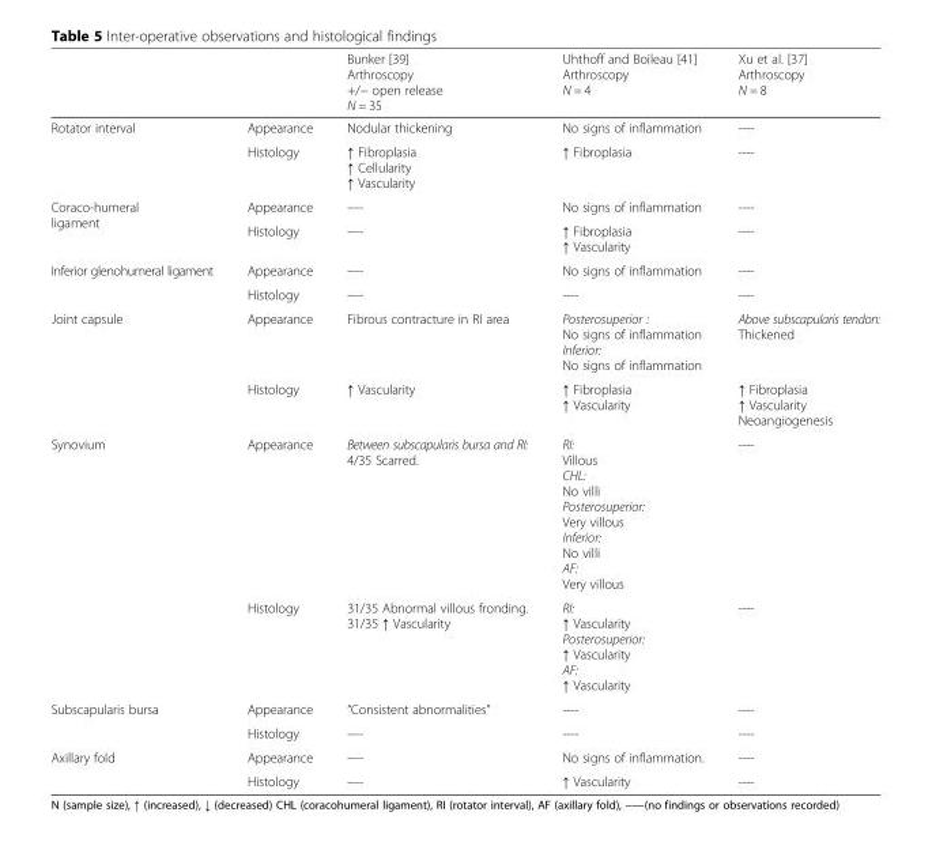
<table><thead><tr><td></td><td></td><td>Bunker [39] Arthroscopy +/− open release N = 35</td><td>Uhthoff and Boileau [41] Arthroscopy N = 4</td><td>Xu et al. [37] Arthroscopy N = 8</td></tr></thead><tbody><tr><td rowspan="2">Rotator interval</td><td>Appearance</td><td>Nodular thickening</td><td>No signs of inflammation</td><td>----</td></tr><tr><td>Histology</td><td>↑ Fibroplasia ↑ Cellularity ↑ Vascularity</td><td>↑ Fibroplasia</td><td>----</td></tr><tr><td rowspan="2">Coraco-humeral ligament</td><td>Appearance</td><td>----</td><td>No signs of inflammation</td><td>----</td></tr><tr><td>Histology</td><td>----</td><td>↑ Fibroplasia ↑ Vascularity</td><td>----</td></tr><tr><td rowspan="2">Inferior glenohumeral ligament</td><td>Appearance</td><td>----</td><td>No signs of inflammation</td><td>----</td></tr><tr><td>Histology</td><td>----</td><td>----</td><td>----</td></tr><tr><td rowspan="2">Joint capsule</td><td>Appearance</td><td>Fibrous contracture in RI area</td><td>Posterosuperior : No signs of inflammation Inferior: No signs of inflammation</td><td>Above subscapularis tendon: Thickened</td></tr><tr><td>Histology</td><td>↑ Vascularity</td><td>↑ Fibroplasia ↑ Vascularity</td><td>↑ Fibroplasia ↑ Vascularity Neoangiogenesis</td></tr><tr><td rowspan="2">Synovium</td><td>Appearance</td><td>Between subscapularis bursa and RI: 4/35 Scarred.</td><td>RI: Villous CHL: No villi Posterosuperior: Very villous Inferior: No villi AF: Very villous</td><td>----</td></tr><tr><td>Histology</td><td>31/35 Abnormal villous fronding. 31/35 ↑ Vascularity</td><td>RI: ↑ Vascularity Posterosuperior: ↑ Vascularity AF: ↑ Vascularity</td><td>----</td></tr><tr><td rowspan="2">Subscapularis bursa</td><td>Appearance</td><td>“Consistent abnormalities”</td><td>----</td><td>----</td></tr><tr><td>Histology</td><td>----</td><td>----</td><td>----</td></tr><tr><td rowspan="2">Axillary fold</td><td>Appearance</td><td>----</td><td>No signs of inflammation.</td><td>----</td></tr><tr><td>Histology</td><td>----</td><td>↑ Vascularity</td><td>----</td></tr></tbody></table>